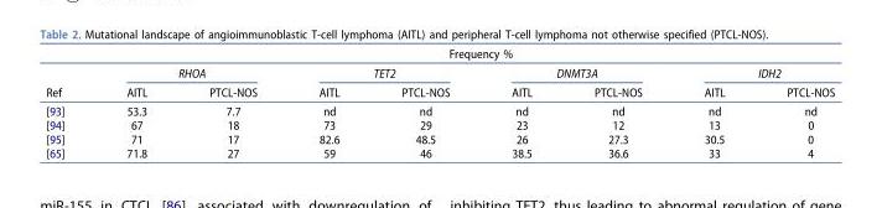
<table><thead><tr><td rowspan="3">Ref</td><td colspan="8">Frequency %</td></tr><tr><td colspan="2">RHOA</td><td colspan="2">TET2</td><td colspan="2">DNMT3A</td><td colspan="2">IDH2</td></tr><tr><td>AITL</td><td>PTCL-NOS</td><td>AITL</td><td>PTCL-NOS</td><td>AITL</td><td>PTCL-NOS</td><td>AITL</td><td>PTCL-NOS</td></tr></thead><tbody><tr><td>[93]</td><td>53.3</td><td>7.7</td><td>nd</td><td>nd</td><td>nd</td><td>nd</td><td>nd</td><td>nd</td></tr><tr><td>[94]</td><td>67</td><td>18</td><td>73</td><td>29</td><td>23</td><td>12</td><td>13</td><td>0</td></tr><tr><td>[95]</td><td>71</td><td>17</td><td>82.6</td><td>48.5</td><td>26</td><td>27.3</td><td>30.5</td><td>0</td></tr><tr><td>[65]</td><td>71.8</td><td>27</td><td>59</td><td>46</td><td>38.5</td><td>36.6</td><td>33</td><td>4</td></tr></tbody></table>